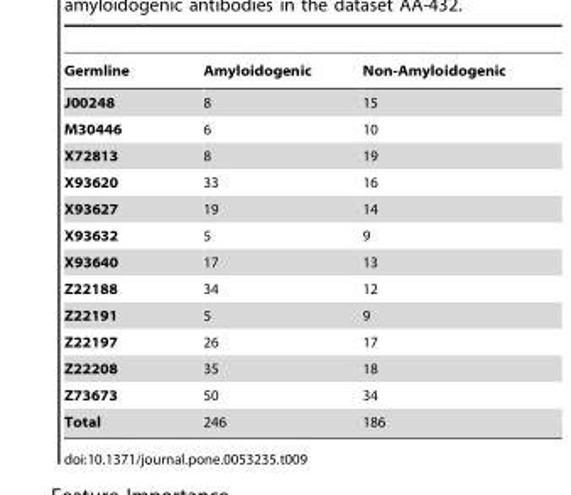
<table><thead><tr><td>Germline</td><td>Amyloidogenic</td><td>Non-Amyloidogenic</td></tr></thead><tbody><tr><td>J00248</td><td>8</td><td>15</td></tr><tr><td>M30446</td><td>6</td><td>10</td></tr><tr><td>X72813</td><td>8</td><td>19</td></tr><tr><td>X93620</td><td>33</td><td>16</td></tr><tr><td>X93627</td><td>19</td><td>14</td></tr><tr><td>X93632</td><td>5</td><td>9</td></tr><tr><td>X93640</td><td>17</td><td>13</td></tr><tr><td>Z22188</td><td>34</td><td>12</td></tr><tr><td>Z22191</td><td>5</td><td>9</td></tr><tr><td>Z22197</td><td>26</td><td>17</td></tr><tr><td>Z22208</td><td>35</td><td>18</td></tr><tr><td>Z73673</td><td>50</td><td>34</td></tr><tr><td>Total</td><td>246</td><td>186</td></tr></tbody></table>